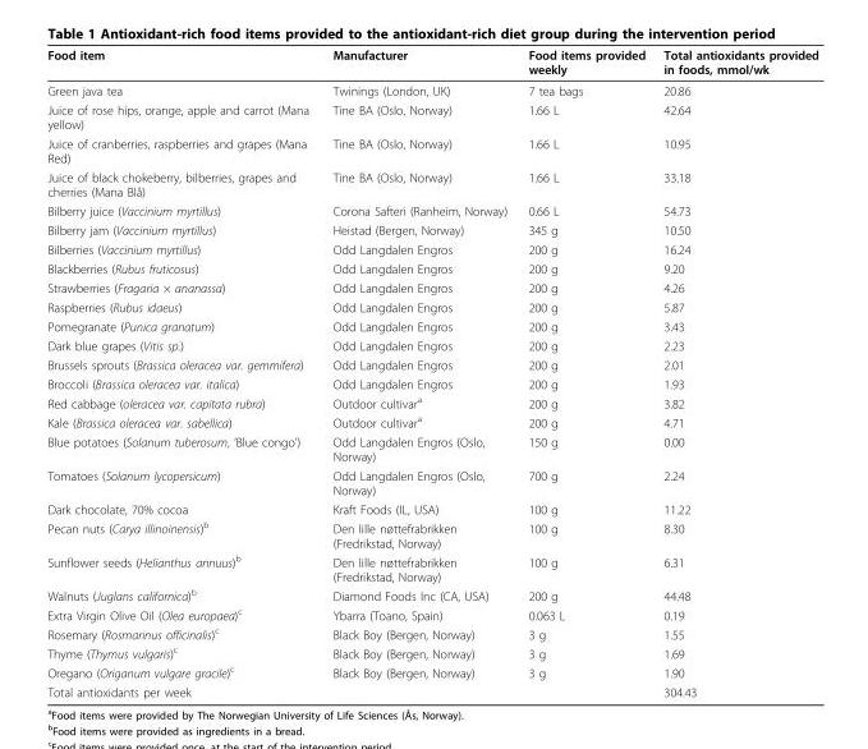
<table><thead><tr><td>Food item</td><td>Manufacturer</td><td>Food items provided weekly</td><td>Total antioxidants provided in foods, mmol/wk</td></tr></thead><tbody><tr><td>Green java tea</td><td>Twinings (London, UK)</td><td>7 tea bags</td><td>20.86</td></tr><tr><td>Juice of rose hips, orange, apple and carrot (Mana yellow)</td><td>Tine BA (Oslo, Norway)</td><td>1.66 L</td><td>42.64</td></tr><tr><td>Juice of cranberries, raspberries and grapes (Mana Red)</td><td>Tine BA (Oslo, Norway)</td><td>1.66 L</td><td>10.95</td></tr><tr><td>Juice of black chokeberry, bilberries, grapes and cherries (Mana Blå)</td><td>Tine BA (Oslo, Norway)</td><td>1.66 L</td><td>33.18</td></tr><tr><td>Bilberry juice (Vaccinium myrtillus)</td><td>Corona Safteri (Ranheim, Norway)</td><td>0.66 L</td><td>54.73</td></tr><tr><td>Bilberry jam (Vaccinium myrtillus)</td><td>Heistad (Bergen, Norway)</td><td>345 g</td><td>10.50</td></tr><tr><td>Bilberries (Vaccinium myrtillus)</td><td>Odd Langdalen Engros</td><td>200 g</td><td>16.24</td></tr><tr><td>Blackberries (Rubus fruticosus)</td><td>Odd Langdalen Engros</td><td>200 g</td><td>9.20</td></tr><tr><td>Strawberries (Fragaria × ananassa)</td><td>Odd Langdalen Engros</td><td>200 g</td><td>4.26</td></tr><tr><td>Raspberries (Rubus idaeus)</td><td>Odd Langdalen Engros</td><td>200 g</td><td>5.87</td></tr><tr><td>Pomegranate (Punica granatum)</td><td>Odd Langdalen Engros</td><td>200 g</td><td>3.43</td></tr><tr><td>Dark blue grapes (Vitis sp.)</td><td>Odd Langdalen Engros</td><td>200 g</td><td>2.23</td></tr><tr><td>Brussels sprouts (Brassica oleracea var. gemmifera)</td><td>Odd Langdalen Engros</td><td>200 g</td><td>2.01</td></tr><tr><td>Broccoli (Brassica oleracea var. italica)</td><td>Odd Langdalen Engros</td><td>200 g</td><td>1.93</td></tr><tr><td>Red cabbage (oleracea var. capitata rubra)</td><td>Outdoor cultivar<sup>a</sup></td><td>200 g</td><td>3.82</td></tr><tr><td>Kale (Brassica oleracea var. sabellica)</td><td>Outdoor cultivar<sup>a</sup></td><td>200 g</td><td>4.71</td></tr><tr><td>Blue potatoes (Solanum tuberosum, ‘Blue congo’)</td><td>Odd Langdalen Engros (Oslo, Norway)</td><td>150 g</td><td>0.00</td></tr><tr><td>Tomatoes (Solanum lycopersicum)</td><td>Odd Langdalen Engros (Oslo, Norway)</td><td>700 g</td><td>2.24</td></tr><tr><td>Dark chocolate, 70% cocoa</td><td>Kraft Foods (IL, USA)</td><td>100 g</td><td>11.22</td></tr><tr><td>Pecan nuts (Carya illinoinensis)<sup>b</sup></td><td>Den lille nøttefrabrikken (Fredrikstad, Norway)</td><td>100 g</td><td>8.30</td></tr><tr><td>Sunflower seeds (Helianthus annuus)<sup>b</sup></td><td>Den lille nøttefrabrikken (Fredrikstad, Norway)</td><td>100 g</td><td>6.31</td></tr><tr><td>Walnuts (Juglans californica)<sup>b</sup></td><td>Diamond Foods Inc (CA, USA)</td><td>200 g</td><td>44.48</td></tr><tr><td>Extra Virgin Olive Oil (Olea europaea)<sup>c</sup></td><td>Ybarra (Toano, Spain)</td><td>0.063 L</td><td>0.19</td></tr><tr><td>Rosemary (Rosmarinus officinalis)<sup>c</sup></td><td>Black Boy (Bergen, Norway)</td><td>3 g</td><td>1.55</td></tr><tr><td>Thyme (Thymus vulgaris)<sup>c</sup></td><td>Black Boy (Bergen, Norway)</td><td>3 g</td><td>1.69</td></tr><tr><td>Oregano (Origanum vulgare gracile)<sup>c</sup></td><td>Black Boy (Bergen, Norway)</td><td>3 g</td><td>1.90</td></tr><tr><td>Total antioxidants per week</td><td></td><td></td><td>304.43</td></tr></tbody></table>